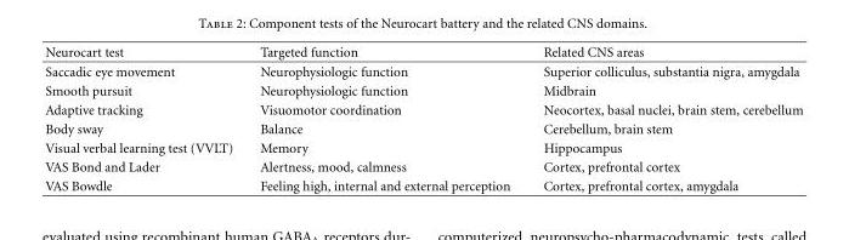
<table><thead><tr><td>Neurocart test</td><td>Targeted function</td><td>Related CNS areas</td></tr></thead><tbody><tr><td>Saccadic eye movement</td><td>Neurophysiologic function</td><td>Superior colliculus, substantia nigra, amygdala</td></tr><tr><td>Smooth pursuit</td><td>Neurophysiologic function</td><td>Midbrain</td></tr><tr><td>Adaptive tracking</td><td>Visuomotor coordination</td><td>Neocortex, basal nuclei, brain stem, cerebellum</td></tr><tr><td>Body sway</td><td>Balance</td><td>Cerebellum, brain stem</td></tr><tr><td>Visual verbal learning test (VVLT)</td><td>Memory</td><td>Hippocampus</td></tr><tr><td>VAS Bond and Lader</td><td>Alertness, mood, calmness</td><td>Cortex, prefrontal cortex</td></tr><tr><td>VAS Bowdle</td><td>Feeling high, internal and external perception</td><td>Cortex, prefrontal cortex, amygdala</td></tr></tbody></table>